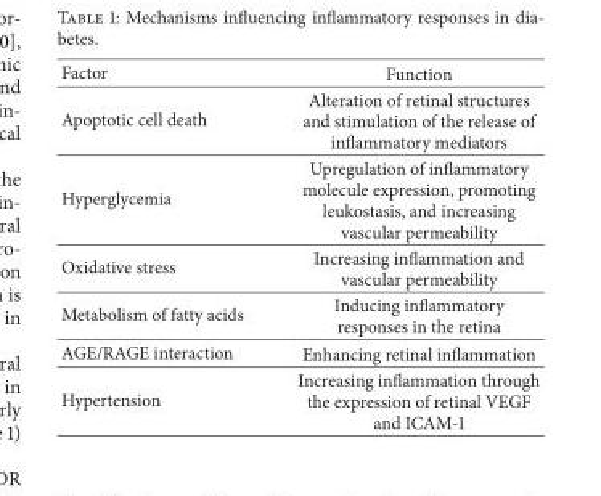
<table><thead><tr><td>Factor</td><td>Function</td></tr></thead><tbody><tr><td>Apoptotic cell death</td><td>Alteration of retinal structures and stimulation of the release of inflammatory mediators</td></tr><tr><td>Hyperglycemia</td><td>Upregulation of inflammatory molecule expression, promoting leukostasis, and increasing vascular permeability</td></tr><tr><td>Oxidative stress</td><td>Increasing inflammation and vascular permeability</td></tr><tr><td>Metabolism of fatty acids</td><td>Inducing inflammatory responses in the retina</td></tr><tr><td>AGE/RAGE interaction</td><td>Enhancing retinal inflammation</td></tr><tr><td>Hypertension</td><td>Increasing inflammation through the expression of retinal VEGF and ICAM-1</td></tr></tbody></table>